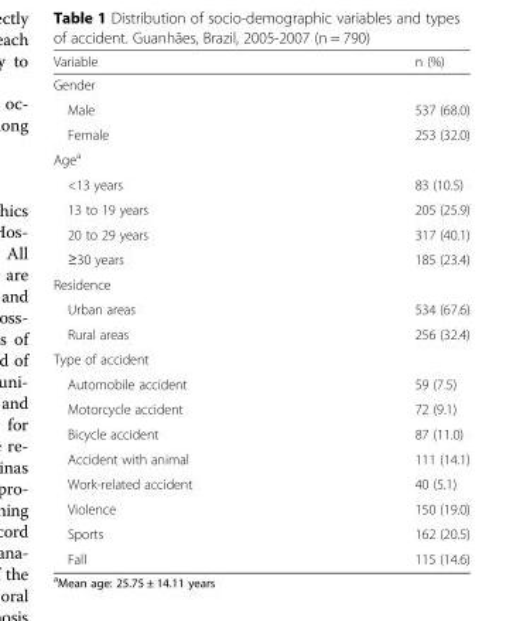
<table><thead><tr><td>Variable</td><td>n (%)</td></tr></thead><tbody><tr><td colspan="2">Gender</td></tr><tr><td>Male</td><td>537 (68.0)</td></tr><tr><td>Female</td><td>253 (32.0)</td></tr><tr><td colspan="2">Age<sup>a</sup></td></tr><tr><td>&lt;13 years</td><td>83 (10.5)</td></tr><tr><td>13 to 19 years</td><td>205 (25.9)</td></tr><tr><td>20 to 29 years</td><td>317 (40.1)</td></tr><tr><td>≥30 years</td><td>185 (23.4)</td></tr><tr><td colspan="2">Residence</td></tr><tr><td>Urban areas</td><td>534 (67.6)</td></tr><tr><td>Rural areas</td><td>256 (32.4)</td></tr><tr><td colspan="2">Type of accident</td></tr><tr><td>Automobile accident</td><td>59 (7.5)</td></tr><tr><td>Motorcycle accident</td><td>72 (9.1)</td></tr><tr><td>Bicycle accident</td><td>87 (11.0)</td></tr><tr><td>Accident with animal</td><td>111 (14.1)</td></tr><tr><td>Work-related accident</td><td>40 (5.1)</td></tr><tr><td>Violence</td><td>150 (19.0)</td></tr><tr><td>Sports</td><td>162 (20.5)</td></tr><tr><td>Fall</td><td>115 (14.6)</td></tr></tbody></table>